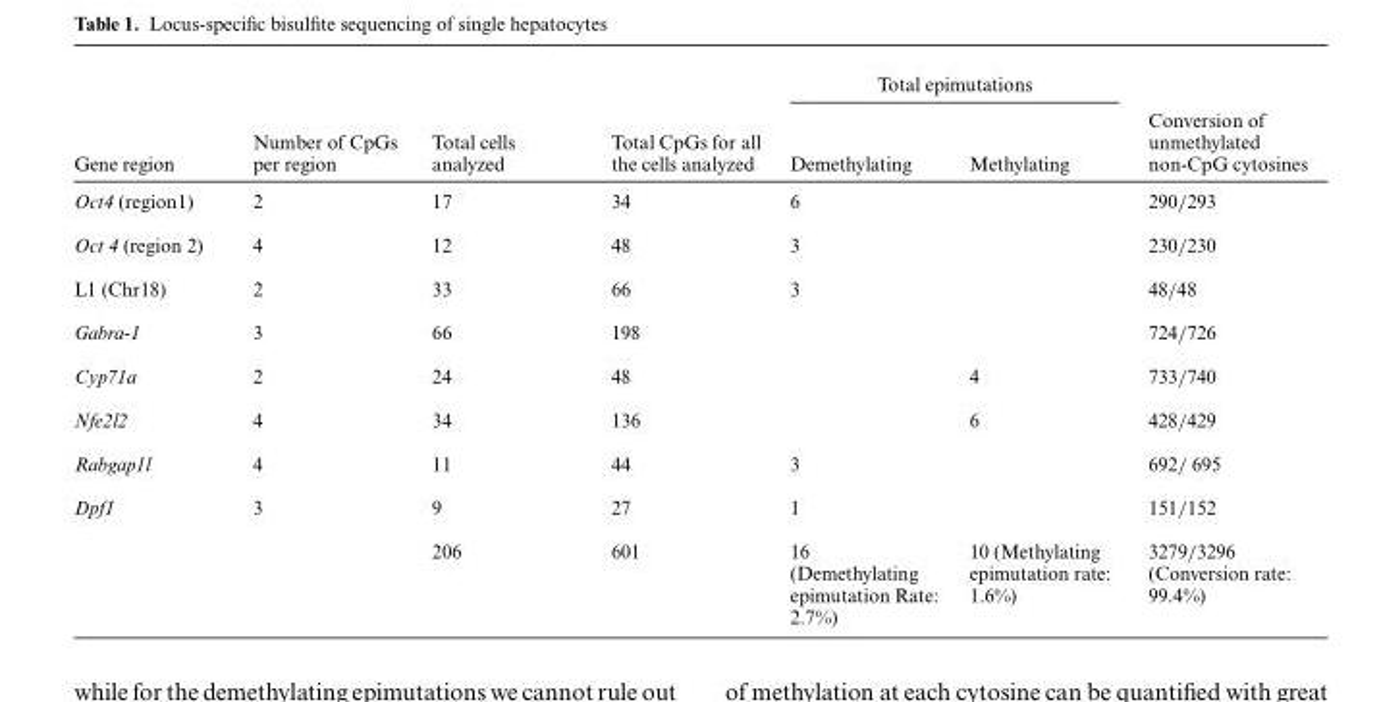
<table><thead><tr><td rowspan="2">Gene region</td><td rowspan="2">Number of CpGs per region</td><td rowspan="2">Total cells analyzed</td><td rowspan="2">Total CpGs for all the cells analyzed</td><td colspan="2">Total epimutations</td><td rowspan="2">Conversion of unmethylated non-CpG cytosines</td></tr><tr><td>Demethylating</td><td>Methylating</td></tr></thead><tbody><tr><td>Oct4 (region1)</td><td>2</td><td>17</td><td>34</td><td>6</td><td></td><td>290/293</td></tr><tr><td>Oct 4 (region 2)</td><td>4</td><td>12</td><td>48</td><td>3</td><td></td><td>230/230</td></tr><tr><td>L1 (Chr18)</td><td>2</td><td>33</td><td>66</td><td>3</td><td></td><td>48/48</td></tr><tr><td>Gabra-1</td><td>3</td><td>66</td><td>198</td><td></td><td></td><td>724/726</td></tr><tr><td>Cyp71a</td><td>2</td><td>24</td><td>48</td><td></td><td>4</td><td>733/740</td></tr><tr><td>Nfe2l2</td><td>4</td><td>34</td><td>136</td><td></td><td>6</td><td>428/429</td></tr><tr><td>Rabgap1l</td><td>4</td><td>11</td><td>44</td><td>3</td><td></td><td>692/ 695</td></tr><tr><td rowspan="2">Dpf1</td><td>3</td><td>9</td><td>27</td><td>1</td><td></td><td>151/152</td></tr><tr><td></td><td>206</td><td>601</td><td>16 (Demethylating epimutation Rate: 2.7%)</td><td>10 (Methylating epimutation rate: 1.6%)</td><td>3279/3296 (Conversion rate: 99.4%)</td></tr></tbody></table>